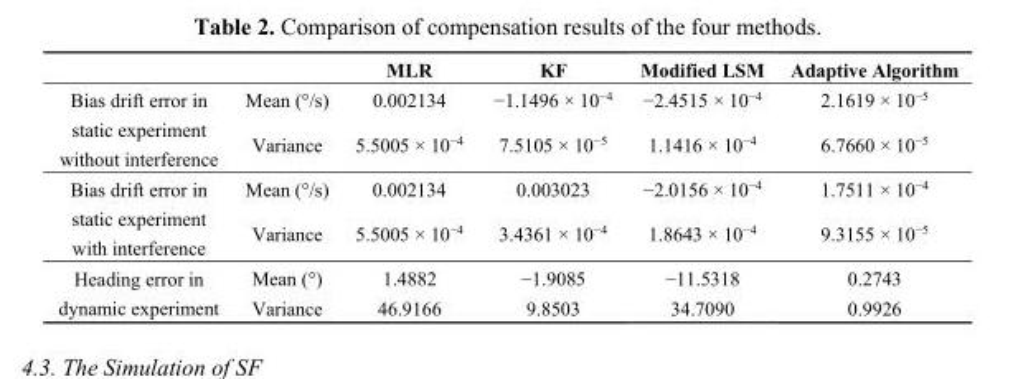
<table><thead><tr><td></td><td></td><td>MLR</td><td>KF</td><td>Modified LSM</td><td>Adaptive Algorithm</td></tr></thead><tbody><tr><td rowspan="2">Bias drift error in static experiment without interference</td><td>Mean (°/s)</td><td>0.002134</td><td>−1.1496 × 10<sup>−4</sup></td><td>−2.4515 × 10<sup>−4</sup></td><td>2.1619 × 10<sup>−5</sup></td></tr><tr><td>Variance</td><td>5.5005 × 10<sup>−4</sup></td><td>7.5105 × 10<sup>−5</sup></td><td>1.1416 × 10<sup>−4</sup></td><td>6.7660 × 10<sup>−5</sup></td></tr><tr><td rowspan="2">Bias drift error in static experiment with interference</td><td>Mean (°/s)</td><td>0.002134</td><td>0.003023</td><td>−2.0156 × 10<sup>−4</sup></td><td>1.7511 × 10<sup>−4</sup></td></tr><tr><td>Variance</td><td>5.5005 × 10<sup>−4</sup></td><td>3.4361 × 10<sup>−4</sup></td><td>1.8643 × 10<sup>−4</sup></td><td>9.3155 × 10<sup>−5</sup></td></tr><tr><td rowspan="2">Heading error in dynamic experiment</td><td>Mean (°)</td><td>1.4882</td><td>−1.9085</td><td>−11.5318</td><td>0.2743</td></tr><tr><td>Variance</td><td>46.9166</td><td>9.8503</td><td>34.7090</td><td>0.9926</td></tr></tbody></table>